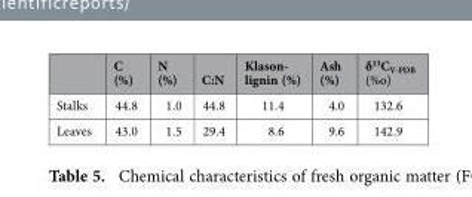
<table><thead><tr><td></td><td>C (%)</td><td>N (%)</td><td>C:N</td><td>Klason- lignin (%)</td><td>Ash (%)</td><td>δ<sup>13</sup>C<sub>V-PDB</sub> (%o)</td></tr></thead><tbody><tr><td>Stalks</td><td>44.8</td><td>1.0</td><td>44.8</td><td>11.4</td><td>4.0</td><td>132.6</td></tr><tr><td>Leaves</td><td>43.0</td><td>1.5</td><td>29.4</td><td>8.6</td><td>9.6</td><td>142.9</td></tr></tbody></table>